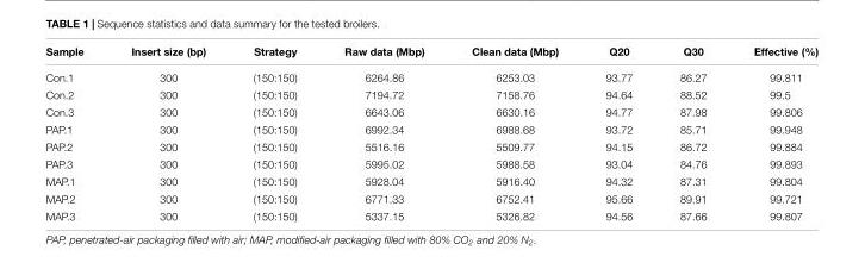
<table><thead><tr><td>Sample</td><td>Insert size (bp)</td><td>Strategy</td><td>Raw data (Mbp)</td><td>Clean data (Mbp)</td><td>Q20</td><td>Q30</td><td>Effective (%)</td></tr></thead><tbody><tr><td>Con.1</td><td>300</td><td>(150:150)</td><td>6264.86</td><td>6253.03</td><td>93.77</td><td>86.27</td><td>99.811</td></tr><tr><td>Con.2</td><td>300</td><td>(150:150)</td><td>7194.72</td><td>7158.76</td><td>94.64</td><td>88.52</td><td>99.5</td></tr><tr><td>Con.3</td><td>300</td><td>(150:150)</td><td>6643.06</td><td>6630.16</td><td>94.77</td><td>87.98</td><td>99.806</td></tr><tr><td>PAP.1</td><td>300</td><td>(150:150)</td><td>6992.34</td><td>6988.68</td><td>93.72</td><td>85.71</td><td>99.948</td></tr><tr><td>PAP.2</td><td>300</td><td>(150:150)</td><td>5516.16</td><td>5509.77</td><td>94.15</td><td>86.72</td><td>99.884</td></tr><tr><td>PAP.3</td><td>300</td><td>(150:150)</td><td>5995.02</td><td>5988.58</td><td>93.04</td><td>84.76</td><td>99.893</td></tr><tr><td>MAP.1</td><td>300</td><td>(150:150)</td><td>5928.04</td><td>5916.40</td><td>94.32</td><td>87.31</td><td>99.804</td></tr><tr><td>MAP.2</td><td>300</td><td>(150:150)</td><td>6771.33</td><td>6752.41</td><td>95.66</td><td>89.91</td><td>99.721</td></tr><tr><td>MAP.3</td><td>300</td><td>(150:150)</td><td>5337.15</td><td>5326.82</td><td>94.56</td><td>87.66</td><td>99.807</td></tr></tbody></table>